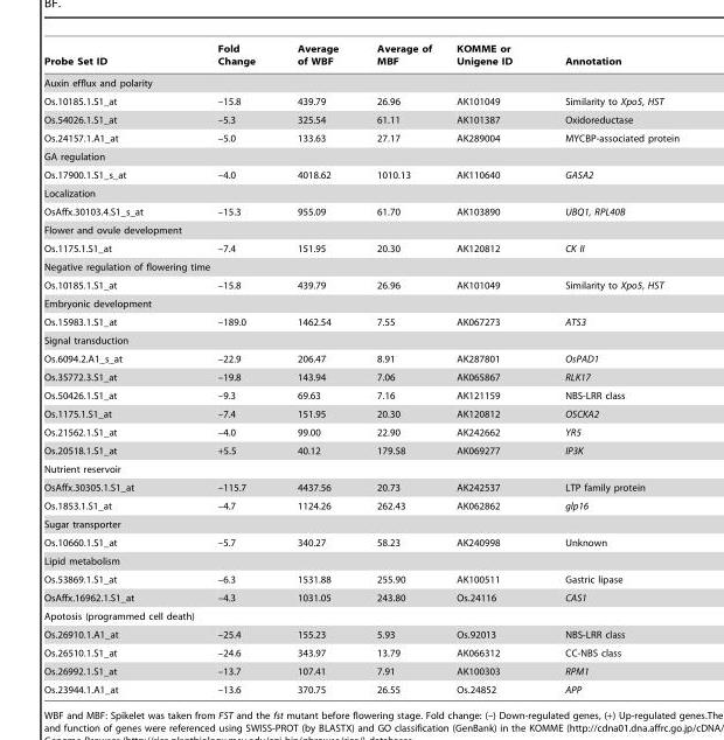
<table><thead><tr><td>Probe Set ID</td><td>Fold Change</td><td>Average of WBF</td><td>Average of MBF</td><td>KOMME or Unigene ID</td><td>Annotation</td></tr></thead><tbody><tr><td colspan="6">Auxin efflux and polarity</td></tr><tr><td>Os.10185.1.S1_at</td><td>–15.8</td><td>439.79</td><td>26.96</td><td>AK101049</td><td>Similarity to Xpo5, HST</td></tr><tr><td>Os.54026.1.S1_at</td><td>–5.3</td><td>325.54</td><td>61.11</td><td>AK101387</td><td>Oxidoreductase</td></tr><tr><td>Os.24157.1.A1_at</td><td>–5.0</td><td>133.63</td><td>27.17</td><td>AK289004</td><td>MYCBP-associated protein</td></tr><tr><td colspan="6">GA regulation</td></tr><tr><td>Os.17900.1.S1_s_at</td><td>–4.0</td><td>4018.62</td><td>1010.13</td><td>AK110640</td><td>GASA2</td></tr><tr><td colspan="6">Localization</td></tr><tr><td>OsAffx.30103.4.S1_s_at</td><td>–15.3</td><td>955.09</td><td>61.70</td><td>AK103890</td><td>UBQ1, RPL40B</td></tr><tr><td colspan="6">Flower and ovule development</td></tr><tr><td>Os.1175.1.S1_at</td><td>–7.4</td><td>151.95</td><td>20.30</td><td>AK120812</td><td>CK II</td></tr><tr><td colspan="6">Negative regulation of flowering time</td></tr><tr><td>Os.10185.1.S1_at</td><td>–15.8</td><td>439.79</td><td>26.96</td><td>AK101049</td><td>Similarity to Xpo5, HST</td></tr><tr><td colspan="6">Embryonic development</td></tr><tr><td>Os.15983.1.S1_at</td><td>–189.0</td><td>1462.54</td><td>7.55</td><td>AK067273</td><td>ATS3</td></tr><tr><td colspan="6">Signal transduction</td></tr><tr><td>Os.6094.2.A1_s_at</td><td>–22.9</td><td>206.47</td><td>8.91</td><td>AK287801</td><td>OsPAD1</td></tr><tr><td>Os.35772.3.S1_at</td><td>–19.8</td><td>143.94</td><td>7.06</td><td>AK065867</td><td>RLK17</td></tr><tr><td>Os.50426.1.S1_at</td><td>–9.3</td><td>69.63</td><td>7.16</td><td>AK121159</td><td>NBS-LRR class</td></tr><tr><td>Os.1175.1.S1_at</td><td>–7.4</td><td>151.95</td><td>20.30</td><td>AK120812</td><td>OSCKA2</td></tr><tr><td>Os.21562.1.S1_at</td><td>–4.0</td><td>99.00</td><td>22.90</td><td>AK242662</td><td>YR5</td></tr><tr><td>Os.20518.1.S1_at</td><td>+5.5</td><td>40.12</td><td>179.58</td><td>AK069277</td><td>IP3K</td></tr><tr><td colspan="6">Nutrient reservoir</td></tr><tr><td>OsAffx.30305.1.S1_at</td><td>–115.7</td><td>4437.56</td><td>20.73</td><td>AK242537</td><td>LTP family protein</td></tr><tr><td>Os.1853.1.S1_at</td><td>–4.7</td><td>1124.26</td><td>262.43</td><td>AK062862</td><td>glp16</td></tr><tr><td colspan="6">Sugar transporter</td></tr><tr><td>Os.10660.1.S1_at</td><td>–5.7</td><td>340.27</td><td>58.23</td><td>AK240998</td><td>Unknown</td></tr><tr><td colspan="6">Lipid metabolism</td></tr><tr><td>Os.53869.1.S1_at</td><td>–6.3</td><td>1531.88</td><td>255.90</td><td>AK100511</td><td>Gastric lipase</td></tr><tr><td>OsAffx.16962.1.S1_at</td><td>–4.3</td><td>1031.05</td><td>243.80</td><td>Os.24116</td><td>CAS1</td></tr><tr><td colspan="6">Apotosis (programmed cell death)</td></tr><tr><td>Os.26910.1.A1_at</td><td>–25.4</td><td>155.23</td><td>5.93</td><td>Os.92013</td><td>NBS-LRR class</td></tr><tr><td>Os.26510.1.S1_at</td><td>–24.6</td><td>343.97</td><td>13.79</td><td>AK066312</td><td>CC-NBS class</td></tr><tr><td>Os.26992.1.S1_at</td><td>–13.7</td><td>107.41</td><td>7.91</td><td>AK100303</td><td>RPM1</td></tr><tr><td>Os.23944.1.A1_at</td><td>–13.6</td><td>370.75</td><td>26.55</td><td>Os.24852</td><td>APP</td></tr></tbody></table>